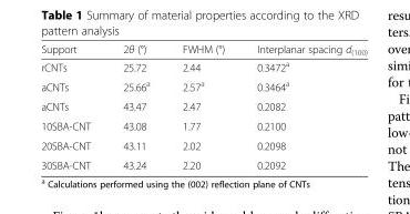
<table><thead><tr><td>Support</td><td>2θ (°)</td><td>FWHM (°)</td><td>Interplanar spacing d<sub>(100)</sub></td></tr></thead><tbody><tr><td>rCNTs</td><td>25.72</td><td>2.44</td><td>0.3472<sup>a</sup></td></tr><tr><td>aCNTs</td><td>25.66<sup>a</sup></td><td>2.57<sup>a</sup></td><td>0.3464<sup>a</sup></td></tr><tr><td>aCNTs</td><td>43.47</td><td>2.47</td><td>0.2082</td></tr><tr><td>10SBA-CNT</td><td>43.08</td><td>1.77</td><td>0.2100</td></tr><tr><td>20SBA-CNT</td><td>43.11</td><td>2.02</td><td>0.2098</td></tr><tr><td>30SBA-CNT</td><td>43.24</td><td>2.20</td><td>0.2092</td></tr></tbody></table>